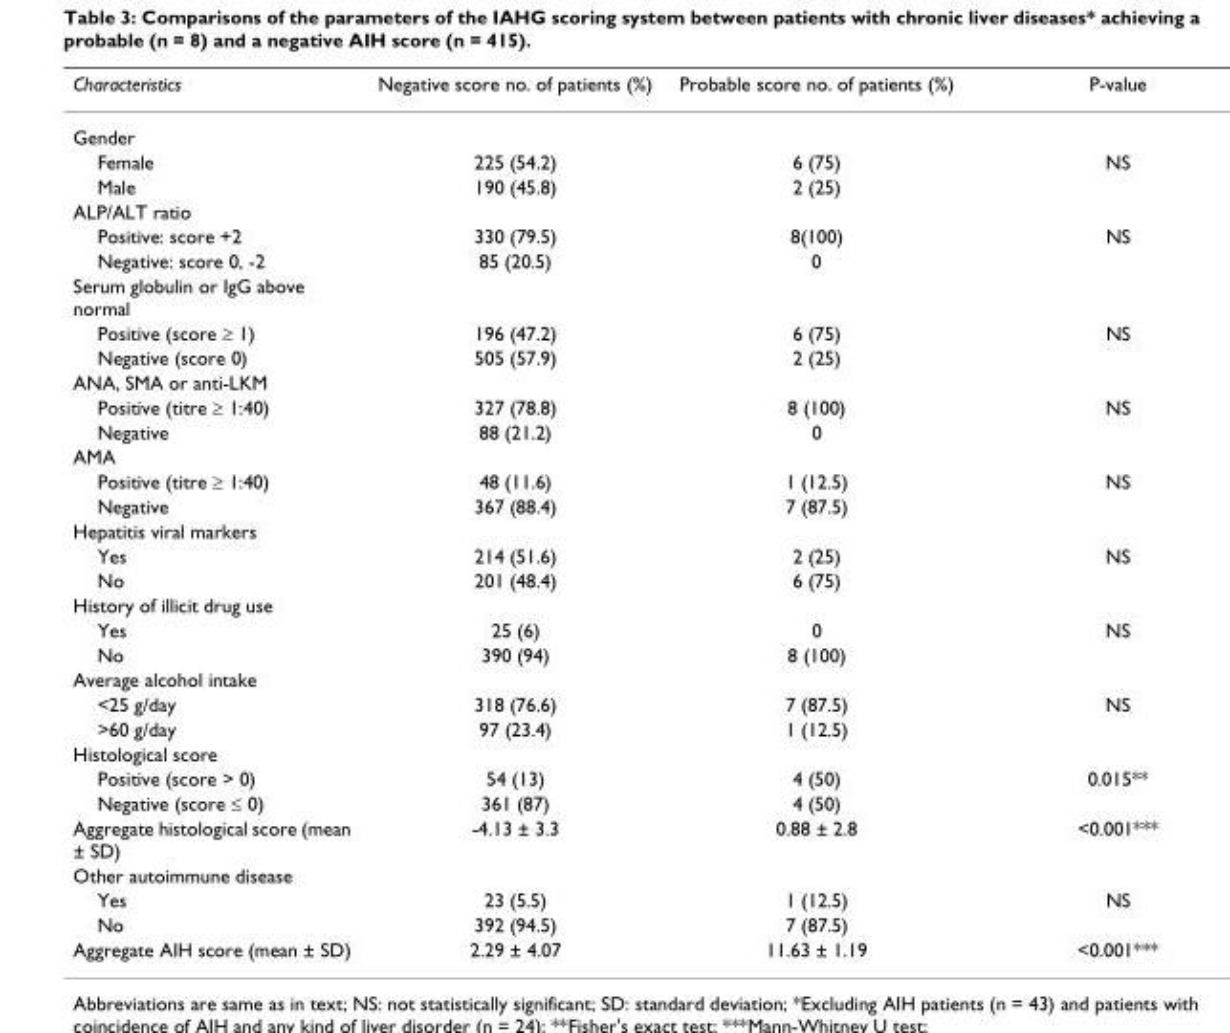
<table><thead><tr><td>Characteristics</td><td>Negative score no. of patients (%)</td><td>Probable score no. of patients (%)</td><td>P-value</td></tr></thead><tbody><tr><td colspan="4">Gender</td></tr><tr><td>Female</td><td>225 (54.2)</td><td>6 (75)</td><td>NS</td></tr><tr><td>Male</td><td>190 (45.8)</td><td>2 (25)</td><td></td></tr><tr><td colspan="4">ALP/ALT ratio</td></tr><tr><td>Positive: score +2</td><td>330 (79.5)</td><td>8(100)</td><td>NS</td></tr><tr><td>Negative: score 0, -2</td><td>85 (20.5)</td><td>0</td><td></td></tr><tr><td colspan="4">Serum globulin or IgG above normal</td></tr><tr><td>Positive (score ≥ 1)</td><td>196 (47.2)</td><td>6 (75)</td><td>NS</td></tr><tr><td>Negative (score 0)</td><td>505 (57.9)</td><td>2 (25)</td><td></td></tr><tr><td colspan="4">ANA, SMA or anti-LKM</td></tr><tr><td>Positive (titre ≥ 1:40)</td><td>327 (78.8)</td><td>8 (100)</td><td>NS</td></tr><tr><td>Negative</td><td>88 (21.2)</td><td>0</td><td></td></tr><tr><td colspan="4">AMA</td></tr><tr><td>Positive (titre ≥ 1:40)</td><td>48 (11.6)</td><td>1 (12.5)</td><td>NS</td></tr><tr><td>Negative</td><td>367 (88.4)</td><td>7 (87.5)</td><td></td></tr><tr><td colspan="4">Hepatitis viral markers</td></tr><tr><td>Yes</td><td>214 (51.6)</td><td>2 (25)</td><td>NS</td></tr><tr><td>No</td><td>201 (48.4)</td><td>6 (75)</td><td></td></tr><tr><td colspan="4">History of illicit drug use</td></tr><tr><td>Yes</td><td>25 (6)</td><td>0</td><td>NS</td></tr><tr><td>No</td><td>390 (94)</td><td>8 (100)</td><td></td></tr><tr><td colspan="4">Average alcohol intake</td></tr><tr><td>&lt;25 g/day</td><td>318 (76.6)</td><td>7 (87.5)</td><td>NS</td></tr><tr><td>&gt;60 g/day</td><td>97 (23.4)</td><td>1 (12.5)</td><td></td></tr><tr><td colspan="4">Histological score</td></tr><tr><td>Positive (score &gt; 0)</td><td>54 (13)</td><td>4 (50)</td><td>0.015**</td></tr><tr><td>Negative (score ≤ 0)</td><td>361 (87)</td><td>4 (50)</td><td></td></tr><tr><td>Aggregate histological score (mean ± SD)</td><td>-4.13 ± 3.3</td><td>0.88 ± 2.8</td><td>&lt;0.001***</td></tr><tr><td colspan="4">Other autoimmune disease</td></tr><tr><td>Yes</td><td>23 (5.5)</td><td>1 (12.5)</td><td>NS</td></tr><tr><td>No</td><td>392 (94.5)</td><td>7 (87.5)</td><td></td></tr><tr><td>Aggregate AIH score (mean ± SD)</td><td>2.29 ± 4.07</td><td>11.63 ± 1.19</td><td>&lt;0.001***</td></tr></tbody></table>